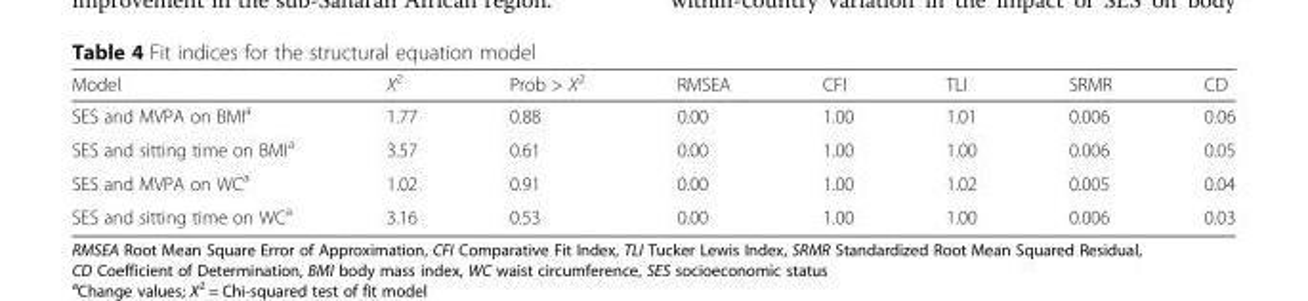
<table><thead><tr><td>Model</td><td>X<sup>2</sup></td><td>Prob &gt; X<sup>2</sup></td><td>RMSEA</td><td>CFI</td><td>TLI</td><td>SRMR</td><td>CD</td></tr></thead><tbody><tr><td>SES and MVPA on BMI<sup>a</sup></td><td>1.77</td><td>0.88</td><td>0.00</td><td>1.00</td><td>1.01</td><td>0.006</td><td>0.06</td></tr><tr><td>SES and sitting time on BMI<sup>a</sup></td><td>3.57</td><td>0.61</td><td>0.00</td><td>1.00</td><td>1.00</td><td>0.006</td><td>0.05</td></tr><tr><td>SES and MVPA on WC<sup>a</sup></td><td>1.02</td><td>0.91</td><td>0.00</td><td>1.00</td><td>1.02</td><td>0.005</td><td>0.04</td></tr><tr><td>SES and sitting time on WC<sup>a</sup></td><td>3.16</td><td>0.53</td><td>0.00</td><td>1.00</td><td>1.00</td><td>0.006</td><td>0.03</td></tr></tbody></table>